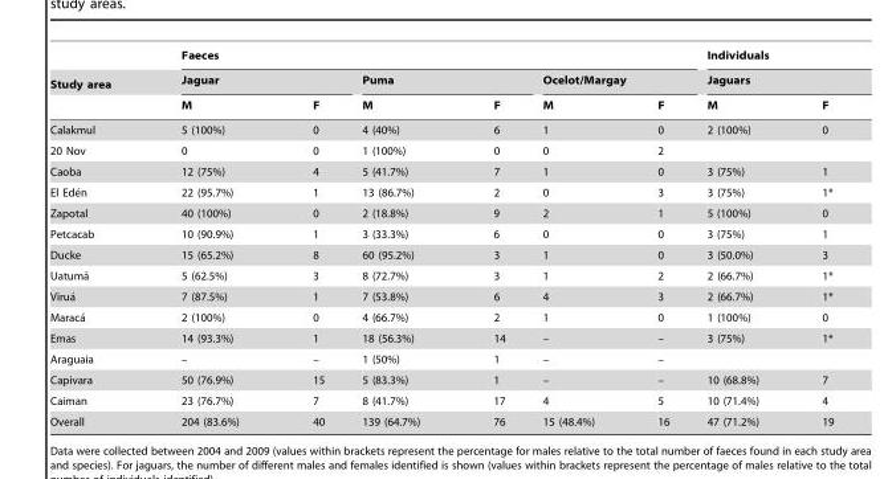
<table><thead><tr><td rowspan="3">Study area</td><td colspan="6">Faeces</td><td rowspan="2" colspan="2">Individuals Jaguars</td></tr><tr><td colspan="2">Jaguar</td><td colspan="2">Puma</td><td colspan="2">Ocelot/Margay</td></tr><tr><td>M</td><td>F</td><td>M</td><td>F</td><td>M</td><td>F</td><td>M</td><td>F</td></tr></thead><tbody><tr><td>Calakmul</td><td>5 (100%)</td><td>0</td><td>4 (40%)</td><td>6</td><td>1</td><td>0</td><td>2 (100%)</td><td>0</td></tr><tr><td>20 Nov</td><td>0</td><td>0</td><td>1 (100%)</td><td>0</td><td>0</td><td>2</td><td></td><td></td></tr><tr><td>Caoba</td><td>12 (75%)</td><td>4</td><td>5 (41.7%)</td><td>7</td><td>1</td><td>0</td><td>3 (75%)</td><td>1</td></tr><tr><td>El Ede´n</td><td>22 (95.7%)</td><td>1</td><td>13 (86.7%)</td><td>2</td><td>0</td><td>3</td><td>3 (75%)</td><td>1*</td></tr><tr><td>Zapotal</td><td>40 (100%)</td><td>0</td><td>2 (18.8%)</td><td>9</td><td>2</td><td>1</td><td>5 (100%)</td><td>0</td></tr><tr><td>Petcacab</td><td>10 (90.9%)</td><td>1</td><td>3 (33.3%)</td><td>6</td><td>0</td><td>0</td><td>3 (75%)</td><td>1</td></tr><tr><td>Ducke</td><td>15 (65.2%)</td><td>8</td><td>60 (95.2%)</td><td>3</td><td>1</td><td>0</td><td>3 (50.0%)</td><td>3</td></tr><tr><td>Uatuma˜</td><td>5 (62.5%)</td><td>3</td><td>8 (72.7%)</td><td>3</td><td>1</td><td>2</td><td>2 (66.7%)</td><td>1*</td></tr><tr><td>Virua´</td><td>7 (87.5%)</td><td>1</td><td>7 (53.8%)</td><td>6</td><td>4</td><td>3</td><td>2 (66.7%)</td><td>1*</td></tr><tr><td>Maraca´</td><td>2 (100%)</td><td>0</td><td>4 (66.7%)</td><td>2</td><td>1</td><td>0</td><td>1 (100%)</td><td>0</td></tr><tr><td>Emas</td><td>14 (93.3%)</td><td>1</td><td>18 (56.3%)</td><td>14</td><td>–</td><td>–</td><td>3 (75%)</td><td>1*</td></tr><tr><td>Araguaia</td><td>–</td><td>–</td><td>1 (50%)</td><td>1</td><td>–</td><td>–</td><td></td><td></td></tr><tr><td>Capivara</td><td>50 (76.9%)</td><td>15</td><td>5 (83.3%)</td><td>1</td><td>–</td><td>–</td><td>10 (68.8%)</td><td>7</td></tr><tr><td>Caiman</td><td>23 (76.7%)</td><td>7</td><td>8 (41.7%)</td><td>17</td><td>4</td><td>5</td><td>10 (71.4%)</td><td>4</td></tr><tr><td>Overall</td><td>204 (83.6%)</td><td>40</td><td>139 (64.7%)</td><td>76</td><td>15 (48.4%)</td><td>16</td><td>47 (71.2%)</td><td>19</td></tr></tbody></table>